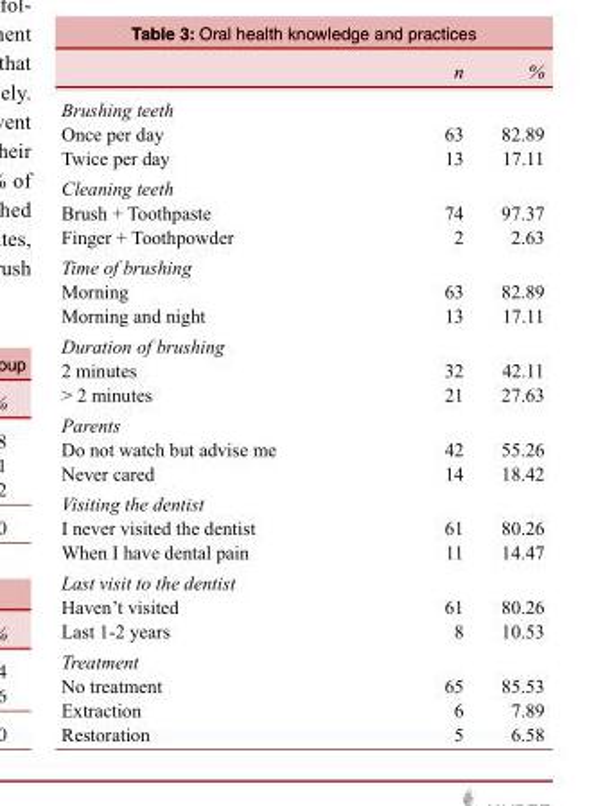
<table><thead><tr><td></td><td>n</td><td>%</td></tr></thead><tbody><tr><td colspan="3">Brushing teeth</td></tr><tr><td>Once per day</td><td>63</td><td>82.89</td></tr><tr><td>Twice per day</td><td>13</td><td>17.11</td></tr><tr><td colspan="3">Cleaning teeth</td></tr><tr><td>Brush + Toothpaste</td><td>74</td><td>97.37</td></tr><tr><td>Finger + Toothpowder</td><td>2</td><td>2.63</td></tr><tr><td colspan="3">Time of brushing</td></tr><tr><td>Morning</td><td>63</td><td>82.89</td></tr><tr><td>Morning and night</td><td>13</td><td>17.11</td></tr><tr><td colspan="3">Duration of brushing</td></tr><tr><td>2 minutes</td><td>32</td><td>42.11</td></tr><tr><td>&gt; 2 minutes</td><td>21</td><td>27.63</td></tr><tr><td colspan="3">Parents</td></tr><tr><td>Do not watch but advise me</td><td>42</td><td>55.26</td></tr><tr><td>Never cared</td><td>14</td><td>18.42</td></tr><tr><td colspan="3">Visiting the dentist</td></tr><tr><td>I never visited the dentist</td><td>61</td><td>80.26</td></tr><tr><td>When I have dental pain</td><td>11</td><td>14.47</td></tr><tr><td colspan="3">Last visit to the dentist</td></tr><tr><td>Haven’t visited</td><td>61</td><td>80.26</td></tr><tr><td>Last 1-2 years</td><td>8</td><td>10.53</td></tr><tr><td colspan="3">Treatment</td></tr><tr><td>No treatment</td><td>65</td><td>85.53</td></tr><tr><td>Extraction</td><td>6</td><td>7.89</td></tr><tr><td>Restoration</td><td>5</td><td>6.58</td></tr></tbody></table>